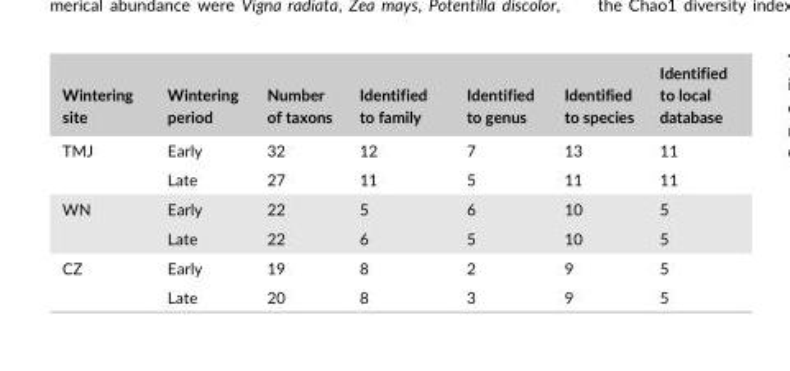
<table><thead><tr><td>Wintering site</td><td>Wintering period</td><td>Number of taxons</td><td>Identified to family</td><td>Identified to genus</td><td>Identified to species</td><td>Identified to local database</td></tr></thead><tbody><tr><td rowspan="2">TMJ</td><td>Early</td><td>32</td><td>12</td><td>7</td><td>13</td><td>11</td></tr><tr><td>Late</td><td>27</td><td>11</td><td>5</td><td>11</td><td>11</td></tr><tr><td rowspan="2">WN</td><td>Early</td><td>22</td><td>5</td><td>6</td><td>10</td><td>5</td></tr><tr><td>Late</td><td>22</td><td>6</td><td>5</td><td>10</td><td>5</td></tr><tr><td rowspan="2">CZ</td><td>Early</td><td>19</td><td>8</td><td>2</td><td>9</td><td>5</td></tr><tr><td>Late</td><td>20</td><td>8</td><td>3</td><td>9</td><td>5</td></tr></tbody></table>